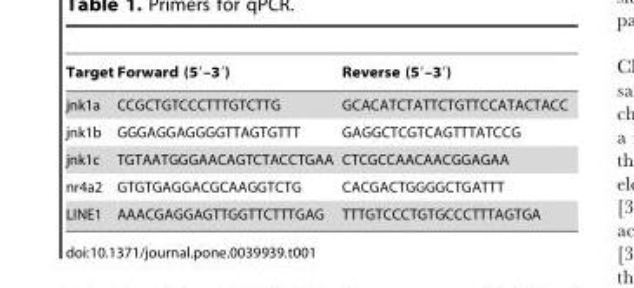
<table><thead><tr><td>Target</td><td>Forward (5′–3′)</td><td>Reverse (5′–3′)</td></tr></thead><tbody><tr><td>jnk1a</td><td>CCGCTGTCCCTTTGTCTTG</td><td>GCACATCTATTCTGTTCCATACTACC</td></tr><tr><td>jnk1b</td><td>GGGAGGAGGGGTTAGTGTTT</td><td>GAGGCTCGTCAGTTTATCCG</td></tr><tr><td>jnk1c</td><td>TGTAATGGGAACAGTCTACCTGAA</td><td>CTCGCCAACAACGGAGAA</td></tr><tr><td>nr4a2</td><td>GTGTGAGGACGCAAGGTCTG</td><td>CACGACTGGGGCTGATTT</td></tr><tr><td>LINE1</td><td>AAACGAGGAGTTGGTTCTTTGAG</td><td>TTTGTCCCTGTGCCCTTTAGTGA</td></tr></tbody></table>